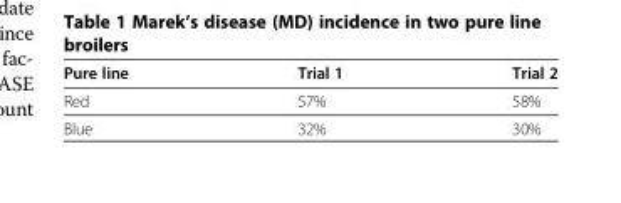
<table><thead><tr><td>Pure line</td><td>Trial 1</td><td>Trial 2</td></tr></thead><tbody><tr><td>Red</td><td>57%</td><td>58%</td></tr><tr><td>Blue</td><td>32%</td><td>30%</td></tr></tbody></table>